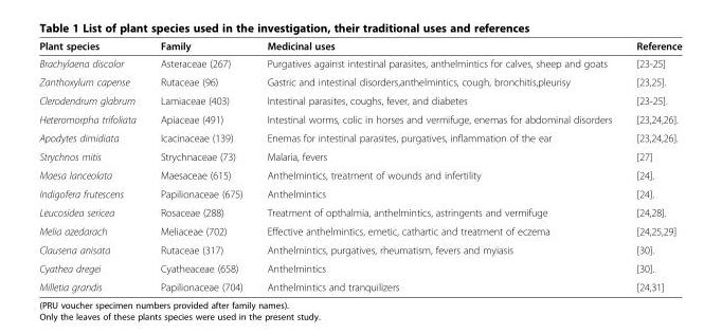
<table><thead><tr><td>Plant species</td><td>Family</td><td>Medicinal uses</td><td>Reference</td></tr></thead><tbody><tr><td>Brachylaena discolor</td><td>Asteraceae (267)</td><td>Purgatives against intestinal parasites, anthelmintics for calves, sheep and goats</td><td>[23-25]</td></tr><tr><td>Zanthoxylum capense</td><td>Rutaceae (96)</td><td>Gastric and intestinal disorders,anthelmintics, cough, bronchitis,pleurisy</td><td>[23,25].</td></tr><tr><td>Clerodendrum glabrum</td><td>Lamiaceae (403)</td><td>Intestinal parasites, coughs, fever, and diabetes</td><td>[23-25].</td></tr><tr><td>Heteromorpha trifoliata</td><td>Apiaceae (491)</td><td>Intestinal worms, colic in horses and vermifuge, enemas for abdominal disorders</td><td>[23,24,26].</td></tr><tr><td>Apodytes dimidiata</td><td>Icacinaceae (139)</td><td>Enemas for intestinal parasites, purgatives, inflammation of the ear</td><td>[23,24,26].</td></tr><tr><td>Strychnos mitis</td><td>Strychnaceae (73)</td><td>Malaria, fevers</td><td>[27]</td></tr><tr><td>Maesa lanceolata</td><td>Maesaceae (615)</td><td>Anthelmintics, treatment of wounds and infertility</td><td>[24].</td></tr><tr><td>Indigofera frutescens</td><td>Papilionaceae (675)</td><td>Anthelmintics</td><td>[24].</td></tr><tr><td>Leucosidea sericea</td><td>Rosaceae (288)</td><td>Treatment of opthalmia, anthelmintics, astringents and vermifuge</td><td>[24,28].</td></tr><tr><td>Melia azedarach</td><td>Meliaceae (702)</td><td>Effective anthelmintics, emetic, cathartic and treatment of eczema</td><td>[24,25,29]</td></tr><tr><td>Clausena anisata</td><td>Rutaceae (317)</td><td>Anthelmintics, purgatives, rheumatism, fevers and myiasis</td><td>[30].</td></tr><tr><td>Cyathea dregei</td><td>Cyatheaceae (658)</td><td>Anthelmintics</td><td>[30].</td></tr><tr><td>Milletia grandis</td><td>Papilionaceae (704)</td><td>Anthelmintics and tranquilizers</td><td>[24,31]</td></tr></tbody></table>